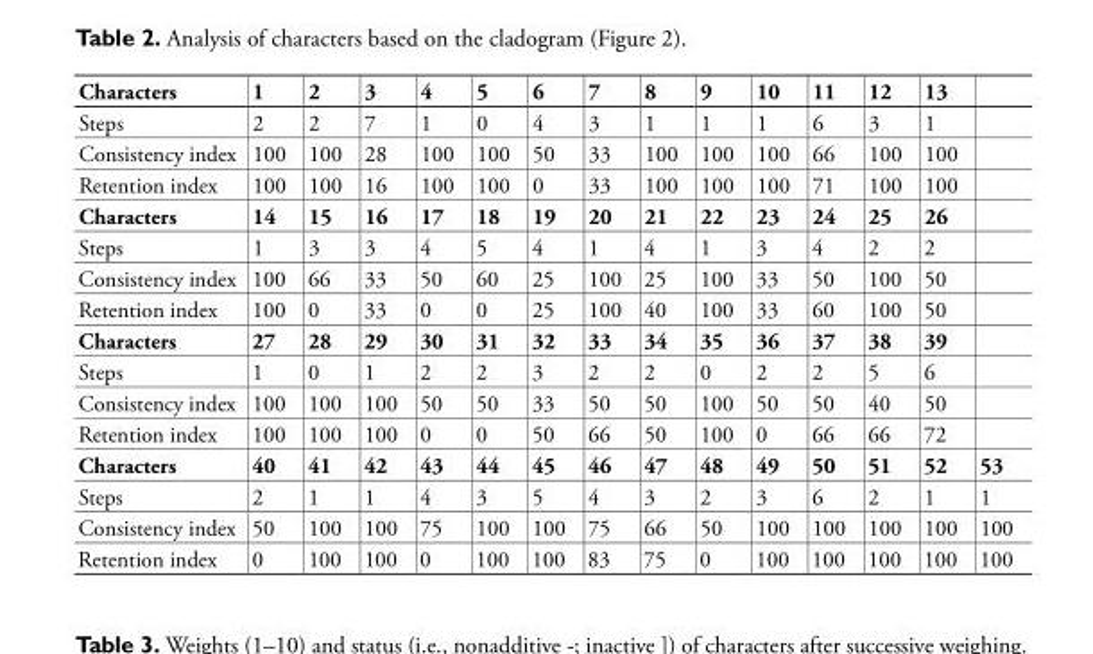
<table><thead><tr><td>Characters</td><td>1</td><td>2</td><td>3</td><td>4</td><td>5</td><td>6</td><td>7</td><td>8</td><td>9</td><td>10</td><td>11</td><td>12</td><td>13</td><td></td></tr></thead><tbody><tr><td>Steps</td><td>2</td><td>2</td><td>7</td><td>1</td><td>0</td><td>4</td><td>3</td><td>1</td><td>1</td><td>1</td><td>6</td><td>3</td><td>1</td><td></td></tr><tr><td>Consistency index</td><td>100</td><td>100</td><td>28</td><td>100</td><td>100</td><td>50</td><td>33</td><td>100</td><td>100</td><td>100</td><td>66</td><td>100</td><td>100</td><td></td></tr><tr><td>Retention index</td><td>100</td><td>100</td><td>16</td><td>100</td><td>100</td><td>0</td><td>33</td><td>100</td><td>100</td><td>100</td><td>71</td><td>100</td><td>100</td><td></td></tr><tr><td>Characters</td><td>14</td><td>15</td><td>16</td><td>17</td><td>18</td><td>19</td><td>20</td><td>21</td><td>22</td><td>23</td><td>24</td><td>25</td><td>26</td><td></td></tr><tr><td>Steps</td><td>1</td><td>3</td><td>3</td><td>4</td><td>5</td><td>4</td><td>1</td><td>4</td><td>1</td><td>3</td><td>4</td><td>2</td><td>2</td><td></td></tr><tr><td>Consistency index</td><td>100</td><td>66</td><td>33</td><td>50</td><td>60</td><td>25</td><td>100</td><td>25</td><td>100</td><td>33</td><td>50</td><td>100</td><td>50</td><td></td></tr><tr><td>Retention index</td><td>100</td><td>0</td><td>33</td><td>0</td><td>0</td><td>25</td><td>100</td><td>40</td><td>100</td><td>33</td><td>60</td><td>100</td><td>50</td><td></td></tr><tr><td>Characters</td><td>27</td><td>28</td><td>29</td><td>30</td><td>31</td><td>32</td><td>33</td><td>34</td><td>35</td><td>36</td><td>37</td><td>38</td><td>39</td><td></td></tr><tr><td>Steps</td><td>1</td><td>0</td><td>1</td><td>2</td><td>2</td><td>3</td><td>2</td><td>2</td><td>0</td><td>2</td><td>2</td><td>5</td><td>6</td><td></td></tr><tr><td>Consistency index</td><td>100</td><td>100</td><td>100</td><td>50</td><td>50</td><td>33</td><td>50</td><td>50</td><td>100</td><td>50</td><td>50</td><td>40</td><td>50</td><td></td></tr><tr><td>Retention index</td><td>100</td><td>100</td><td>100</td><td>0</td><td>0</td><td>50</td><td>66</td><td>50</td><td>100</td><td>0</td><td>66</td><td>66</td><td>72</td><td></td></tr><tr><td>Characters</td><td>40</td><td>41</td><td>42</td><td>43</td><td>44</td><td>45</td><td>46</td><td>47</td><td>48</td><td>49</td><td>50</td><td>51</td><td>52</td><td>53</td></tr><tr><td>Steps</td><td>2</td><td>1</td><td>1</td><td>4</td><td>3</td><td>5</td><td>4</td><td>3</td><td>2</td><td>3</td><td>6</td><td>2</td><td>1</td><td>1</td></tr><tr><td>Consistency index</td><td>50</td><td>100</td><td>100</td><td>75</td><td>100</td><td>100</td><td>75</td><td>66</td><td>50</td><td>100</td><td>100</td><td>100</td><td>100</td><td>100</td></tr><tr><td>Retention index</td><td>0</td><td>100</td><td>100</td><td>0</td><td>100</td><td>100</td><td>83</td><td>75</td><td>0</td><td>100</td><td>100</td><td>100</td><td>100</td><td>100</td></tr></tbody></table>